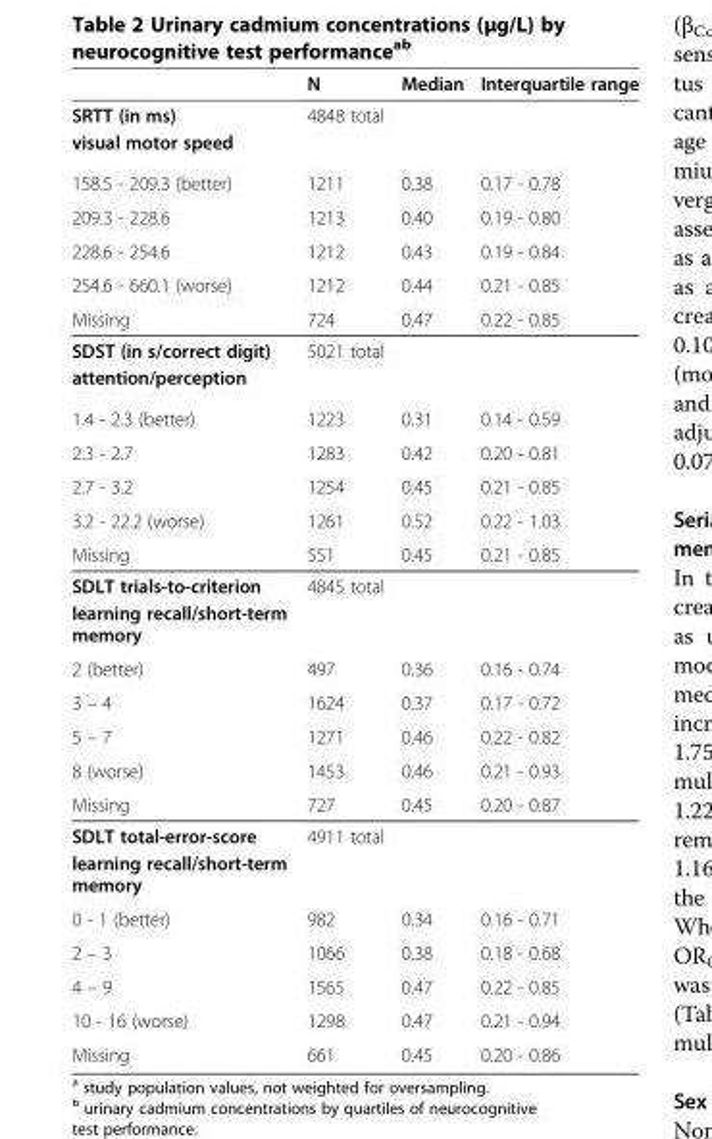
<table><thead><tr><td></td><td>N</td><td>Median</td><td>Interquartile range</td></tr></thead><tbody><tr><td>SRTT (in ms)</td><td>4848 total</td><td></td><td></td></tr><tr><td colspan="4">visual motor speed</td></tr><tr><td>158.5 - 209.3 (better)</td><td>1211</td><td>0.38</td><td>0.17 - 0.78</td></tr><tr><td>209.3 - 228.6</td><td>1213</td><td>0.40</td><td>0.19 - 0.80</td></tr><tr><td>228.6 - 254.6</td><td>1212</td><td>0.43</td><td>0.19 - 0.84</td></tr><tr><td>254.6 - 660.1 (worse)</td><td>1212</td><td>0.44</td><td>0.21 - 0.85</td></tr><tr><td>Missing</td><td>724</td><td>0.47</td><td>0.22 - 0.85</td></tr><tr><td>SDST (in s/correct digit)</td><td>5021 total</td><td></td><td></td></tr><tr><td colspan="4">attention/perception</td></tr><tr><td>1.4 - 2.3 (better)</td><td>1223</td><td>0.31</td><td>0.14 - 0.59</td></tr><tr><td>2.3 - 2.7</td><td>1283</td><td>0.42</td><td>0.20 - 0.81</td></tr><tr><td>2.7 - 3.2</td><td>1254</td><td>0.45</td><td>0.21 - 0.85</td></tr><tr><td>3.2 - 22.2 (worse)</td><td>1261</td><td>0.52</td><td>0.22 - 1.03</td></tr><tr><td>Missing</td><td>551</td><td>0.45</td><td>0.21 - 0.85</td></tr><tr><td>SDLT trials-to-criterion</td><td>4845 total</td><td></td><td></td></tr><tr><td colspan="4">learning recall/short-term memory</td></tr><tr><td>2 (better)</td><td>497</td><td>0.36</td><td>0.16 - 0.74</td></tr><tr><td>3 – 4</td><td>1624</td><td>0.37</td><td>0.17 - 0.72</td></tr><tr><td>5 – 7</td><td>1271</td><td>0.46</td><td>0.22 - 0.82</td></tr><tr><td>8 (worse)</td><td>1453</td><td>0.46</td><td>0.21 - 0.93</td></tr><tr><td>Missing</td><td>727</td><td>0.45</td><td>0.20 - 0.87</td></tr><tr><td>SDLT total-error-score</td><td>4911 total</td><td></td><td></td></tr><tr><td colspan="4">learning recall/short-term memory</td></tr><tr><td>0 - 1 (better)</td><td>982</td><td>0.34</td><td>0.16 - 0.71</td></tr><tr><td>2 – 3</td><td>1066</td><td>0.38</td><td>0.18 - 0.68</td></tr><tr><td>4 – 9</td><td>1565</td><td>0.47</td><td>0.22 - 0.85</td></tr><tr><td>10 - 16 (worse)</td><td>1298</td><td>0.47</td><td>0.21 - 0.94</td></tr><tr><td>Missing</td><td>661</td><td>0.45</td><td>0.20 - 0.86</td></tr></tbody></table>